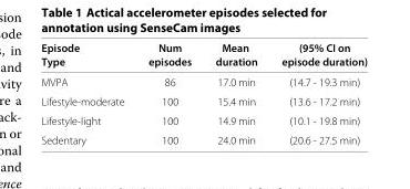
<table><thead><tr><td rowspan="2">Episode Type</td><td rowspan="2">Num episodes</td><td rowspan="2">Mean duration</td><td rowspan="2">(95% CI on episode duration)</td></tr><tr></tr></thead><tbody><tr><td>MVPA</td><td>86</td><td>17.0 min</td><td>(14.7 - 19.3 min)</td></tr><tr><td>Lifestyle-moderate</td><td>100</td><td>15.4 min</td><td>(13.6 - 17.2 min)</td></tr><tr><td>Lifestyle-light</td><td>100</td><td>14.9 min</td><td>(10.1 - 19.8 min)</td></tr><tr><td>Sedentary</td><td>100</td><td>24.0 min</td><td>(20.6 - 27.5 min)</td></tr></tbody></table>